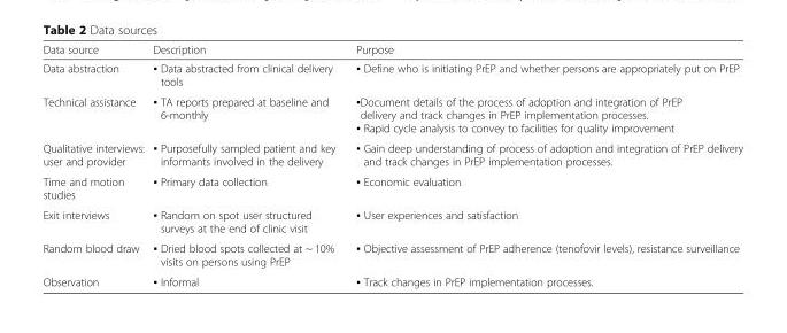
<table><thead><tr><td>Data source</td><td>Description</td><td>Purpose</td></tr></thead><tbody><tr><td>Data abstraction</td><td>▪ Data abstracted from clinical delivery tools</td><td>▪ Define who is initiating PrEP and whether persons are appropriately put on PrEP</td></tr><tr><td>Technical assistance</td><td>▪ TA reports prepared at baseline and 6-monthly</td><td>▪Document details of the process of adoption and integration of PrEP delivery and track changes in PrEP implementation processes. ▪ Rapid cycle analysis to convey to facilities for quality improvement</td></tr><tr><td>Qualitative interviews: user and provider</td><td>▪ Purposefully sampled patient and key informants involved in the delivery</td><td>▪ Gain deep understanding of process of adoption and integration of PrEP delivery and track changes in PrEP implementation processes.</td></tr><tr><td>Time and motion studies</td><td>▪ Primary data collection</td><td>▪ Economic evaluation</td></tr><tr><td>Exit interviews</td><td>▪ Random on spot user structured surveys at the end of clinic visit</td><td>▪ User experiences and satisfaction</td></tr><tr><td>Random blood draw</td><td>▪ Dried blood spots collected at ~ 10% visits on persons using PrEP</td><td>▪ Objective assessment of PrEP adherence (tenofovir levels), resistance surveillance</td></tr><tr><td>Observation</td><td>▪ Informal</td><td>▪ Track changes in PrEP implementation processes.</td></tr></tbody></table>